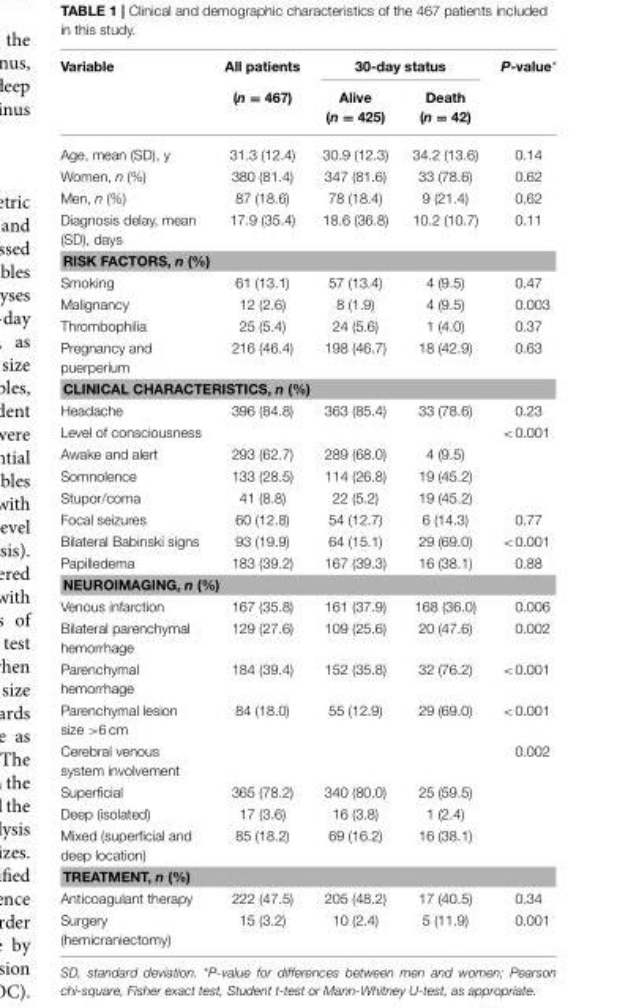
<table><thead><tr><td rowspan="2">Variable</td><td rowspan="2">All patients (n = 467)</td><td colspan="2">30-day status</td><td rowspan="2">P-value*</td></tr><tr><td>Alive (n = 425)</td><td>Death (n = 42)</td></tr></thead><tbody><tr><td>Age, mean (SD), y</td><td>31.3 (12.4)</td><td>30.9 (12.3)</td><td>34.2 (13.6)</td><td>0.14</td></tr><tr><td>Women, n (%)</td><td>380 (81.4)</td><td>347 (81.6)</td><td>33 (78.6)</td><td>0.62</td></tr><tr><td>Men, n (%)</td><td>87 (18.6)</td><td>78 (18.4)</td><td>9 (21.4)</td><td>0.62</td></tr><tr><td>Diagnosis delay, mean (SD), days</td><td>17.9 (35.4)</td><td>18.6 (36.8)</td><td>10.2 (10.7)</td><td>0.11</td></tr><tr><td colspan="5">RISK FACTORS, n (%)</td></tr><tr><td>Smoking</td><td>61 (13.1)</td><td>57 (13.4)</td><td>4 (9.5)</td><td>0.47</td></tr><tr><td>Malignancy</td><td>12 (2.6)</td><td>8 (1.9)</td><td>4 (9.5)</td><td>0.003</td></tr><tr><td>Thrombophilia</td><td>25 (5.4)</td><td>24 (5.6)</td><td>1 (4.0)</td><td>0.37</td></tr><tr><td>Pregnancy and puerperium</td><td>216 (46.4)</td><td>198 (46.7)</td><td>18 (42.9)</td><td>0.63</td></tr><tr><td colspan="5">CLINICAL CHARACTERISTICS, n (%)</td></tr><tr><td>Headache</td><td>396 (84.8)</td><td>363 (85.4)</td><td>33 (78.6)</td><td>0.23</td></tr><tr><td>Level of consciousness</td><td></td><td></td><td></td><td>&lt;0.001</td></tr><tr><td>Awake and alert</td><td>293 (62.7)</td><td>289 (68.0)</td><td>4 (9.5)</td><td></td></tr><tr><td>Somnolence</td><td>133 (28.5)</td><td>114 (26.8)</td><td>19 (45.2)</td><td></td></tr><tr><td>Stupor/coma</td><td>41 (8.8)</td><td>22 (5.2)</td><td>19 (45.2)</td><td></td></tr><tr><td>Focal seizures</td><td>60 (12.8)</td><td>54 (12.7)</td><td>6 (14.3)</td><td>0.77</td></tr><tr><td>Bilateral Babinski signs</td><td>93 (19.9)</td><td>64 (15.1)</td><td>29 (69.0)</td><td>&lt;0.001</td></tr><tr><td>Papilledema</td><td>183 (39.2)</td><td>167 (39.3)</td><td>16 (38.1)</td><td>0.88</td></tr><tr><td colspan="5">NEUROIMAGING, n (%)</td></tr><tr><td>Venous infarction</td><td>167 (35.8)</td><td>161 (37.9)</td><td>168 (36.0)</td><td>0.006</td></tr><tr><td>Bilateral parenchymal hemorrhage</td><td>129 (27.6)</td><td>109 (25.6)</td><td>20 (47.6)</td><td>0.002</td></tr><tr><td>Parenchymal hemorrhage</td><td>184 (39.4)</td><td>152 (35.8)</td><td>32 (76.2)</td><td>&lt;0.001</td></tr><tr><td>Parenchymal lesion size &gt;6 cm</td><td>84 (18.0)</td><td>55 (12.9)</td><td>29 (69.0)</td><td>&lt;0.001</td></tr><tr><td>Cerebral venous system involvement</td><td></td><td></td><td></td><td>0.002</td></tr><tr><td>Superficial</td><td>365 (78.2)</td><td>340 (80.0)</td><td>25 (59.5)</td><td></td></tr><tr><td>Deep (isolated)</td><td>17 (3.6)</td><td>16 (3.8)</td><td>1 (2.4)</td><td></td></tr><tr><td>Mixed (superficial and deep location)</td><td>85 (18.2)</td><td>69 (16.2)</td><td>16 (38.1)</td><td></td></tr><tr><td colspan="5">TREATMENT, n (%)</td></tr><tr><td>Anticoagulant therapy</td><td>222 (47.5)</td><td>205 (48.2)</td><td>17 (40.5)</td><td>0.34</td></tr><tr><td>Surgery (hemicraniectomy)</td><td>15 (3.2)</td><td>10 (2.4)</td><td>5 (11.9)</td><td>0.001</td></tr></tbody></table>